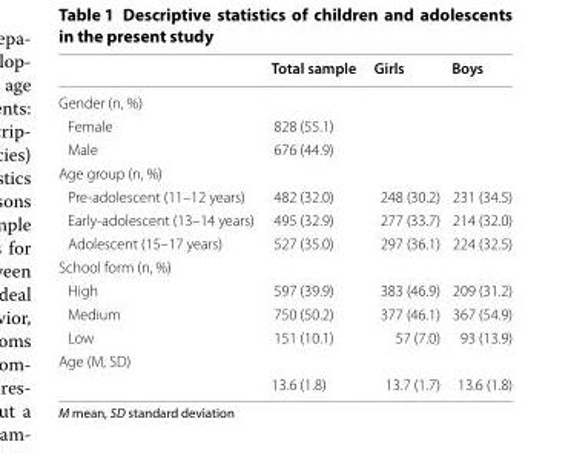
<table><thead><tr><td></td><td>Total sample</td><td>Girls</td><td>Boys</td></tr></thead><tbody><tr><td colspan="4">Gender (n, %)</td></tr><tr><td>Female</td><td>828 (55.1)</td><td></td><td></td></tr><tr><td>Male</td><td>676 (44.9)</td><td></td><td></td></tr><tr><td colspan="4">Age group (n, %)</td></tr><tr><td>Pre-adolescent (11–12 years)</td><td>482 (32.0)</td><td>248 (30.2)</td><td>231 (34.5)</td></tr><tr><td>Early-adolescent (13–14 years)</td><td>495 (32.9)</td><td>277 (33.7)</td><td>214 (32.0)</td></tr><tr><td>Adolescent (15–17 years)</td><td>527 (35.0)</td><td>297 (36.1)</td><td>224 (32.5)</td></tr><tr><td colspan="4">School form (n, %)</td></tr><tr><td>High</td><td>597 (39.9)</td><td>383 (46.9)</td><td>209 (31.2)</td></tr><tr><td>Medium</td><td>750 (50.2)</td><td>377 (46.1)</td><td>367 (54.9)</td></tr><tr><td>Low</td><td>151 (10.1)</td><td>57 (7.0)</td><td>93 (13.9)</td></tr><tr><td colspan="4">Age (M, SD)</td></tr><tr><td></td><td>13.6 (1.8)</td><td>13.7 (1.7)</td><td>13.6 (1.8)</td></tr></tbody></table>